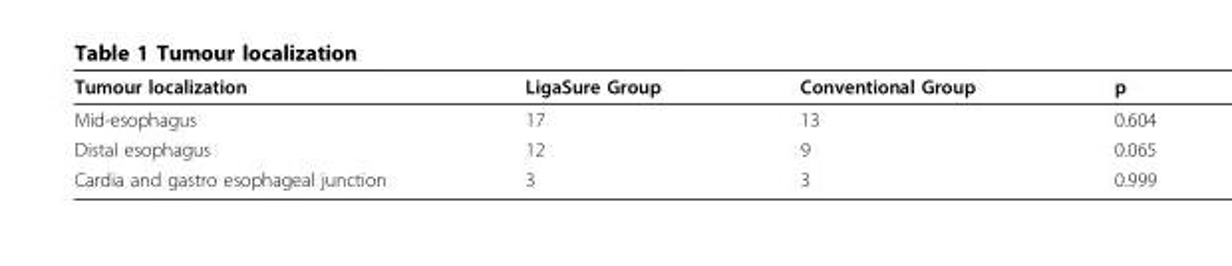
<table><thead><tr><td>Tumour localization</td><td>LigaSure Group</td><td>Conventional Group</td><td>p</td></tr></thead><tbody><tr><td>Mid-esophagus</td><td>17</td><td>13</td><td>0.604</td></tr><tr><td>Distal esophagus</td><td>12</td><td>9</td><td>0.065</td></tr><tr><td>Cardia and gastro esophageal junction</td><td>3</td><td>3</td><td>0.999</td></tr></tbody></table>